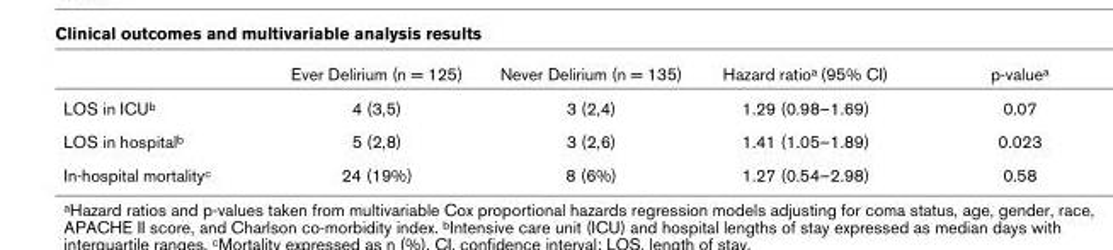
<table><thead><tr><td></td><td>Ever Delirium (n = 125)</td><td>Never Delirium (n = 135)</td><td>Hazard ratioa (95% CI)</td><td>p-valuea</td></tr></thead><tbody><tr><td>LOS in ICUb</td><td>4 (3,5)</td><td>3 (2,4)</td><td>1.29 (0.98–1.69)</td><td>0.07</td></tr><tr><td>LOS in hospitalb</td><td>5 (2,8)</td><td>3 (2,6)</td><td>1.41 (1.05–1.89)</td><td>0.023</td></tr><tr><td>In-hospital mortalityc</td><td>24 (19%)</td><td>8 (6%)</td><td>1.27 (0.54–2.98)</td><td>0.58</td></tr></tbody></table>